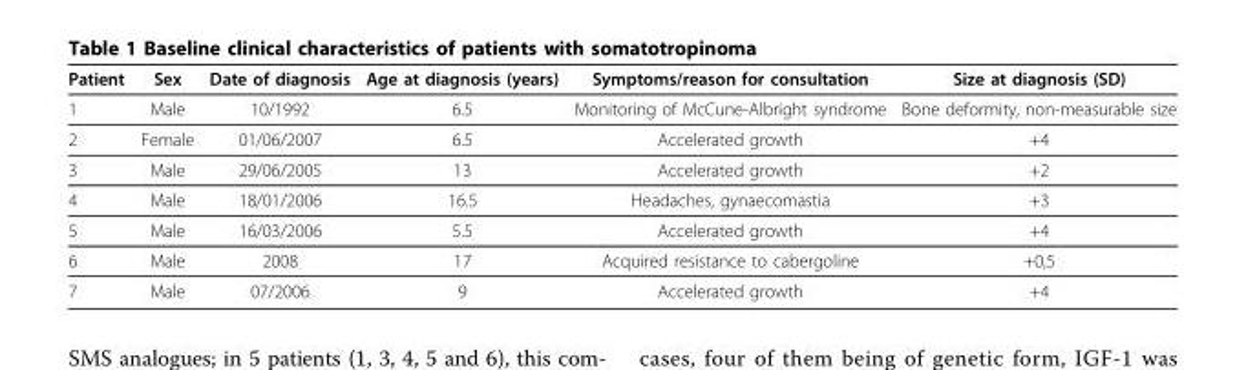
<table><thead><tr><td>Patient</td><td>Sex</td><td>Date of diagnosis</td><td>Age at diagnosis (years)</td><td>Symptoms/reason for consultation</td><td>Size at diagnosis (SD)</td></tr></thead><tbody><tr><td>1</td><td>Male</td><td>10/1992</td><td>6.5</td><td>Monitoring of McCune-Albright syndrome</td><td>Bone deformity, non-measurable size</td></tr><tr><td>2</td><td>Female</td><td>01/06/2007</td><td>6.5</td><td>Accelerated growth</td><td>+4</td></tr><tr><td>3</td><td>Male</td><td>29/06/2005</td><td>13</td><td>Accelerated growth</td><td>+2</td></tr><tr><td>4</td><td>Male</td><td>18/01/2006</td><td>16.5</td><td>Headaches, gynaecomastia</td><td>+3</td></tr><tr><td>5</td><td>Male</td><td>16/03/2006</td><td>5.5</td><td>Accelerated growth</td><td>+4</td></tr><tr><td>6</td><td>Male</td><td>2008</td><td>17</td><td>Acquired resistance to cabergoline</td><td>+0,5</td></tr><tr><td>7</td><td>Male</td><td>07/2006</td><td>9</td><td>Accelerated growth</td><td>+4</td></tr></tbody></table>